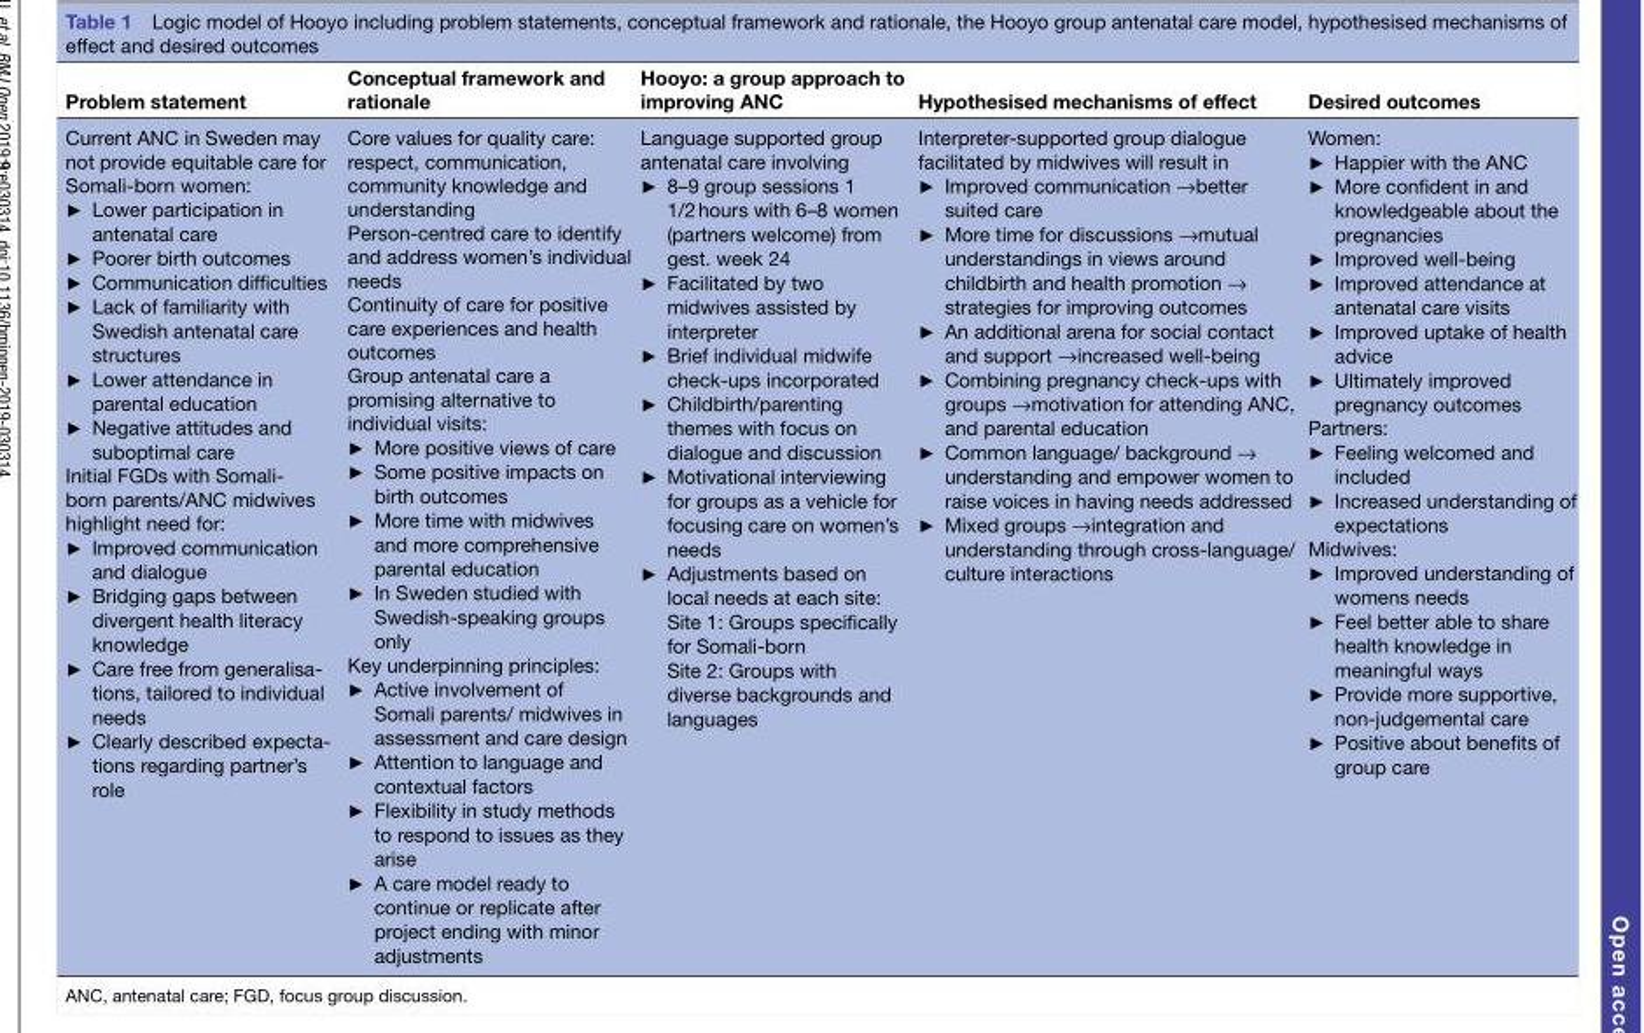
<table><thead><tr><td>Problem statement</td><td>Conceptual framework and rationale</td><td>Hooyo: a group approach to improving ANC</td><td>Hypothesised mechanisms of effect</td><td>Desired outcomes</td></tr></thead><tbody><tr><td>Current ANC in Sweden may not provide equitable care for Somali-born women: ► Lower participation in antenatal care ► Poorer birth outcomes ► Communication difficulties ► Lack of familiarity with Swedish antenatal care structures ► Lower attendance in parental education ► Negative attitudes and suboptimal care Initial FGDs with Somali- born parents/ANC midwives highlight need for: ► Improved communication and dialogue ► Bridging gaps between divergent health literacy knowledge ► Care free from generalisa- tions, tailored to individual needs ► Clearly described expecta- tions regarding partner’s role</td><td>Core values for quality care: respect, communication, community knowledge and understanding Person-centred care to identify and address women’s individual needs Continuity of care for positive care experiences and health outcomes Group antenatal care a promising alternative to individual visits: ► More positive views of care ► Some positive impacts on birth outcomes ► More time with midwives and more comprehensive parental education ► In Sweden studied with Swedish-speaking groups only Key underpinning principles: ► Active involvement of Somali parents/ midwives in assessment and care design ► Attention to language and contextual factors ► Flexibility in study methods to respond to issues as they arise ► A care model ready to continue or replicate after project ending with minor adjustments</td><td>Language supported group antenatal care involving ► 8–9 group sessions 1 1/2 hours with 6–8 women (partners welcome) from gest. week 24 ► Facilitated by two midwives assisted by interpreter ► Brief individual midwife check-ups incorporated ► Childbirth/parenting themes with focus on dialogue and discussion ► Motivational interviewing for groups as a vehicle for focusing care on women’s needs ► Adjustments based on local needs at each site: Site 1: Groups specifically for Somali-born Site 2: Groups with diverse backgrounds and languages</td><td>Interpreter-supported group dialogue facilitated by midwives will result in ► Improved communication →better suited care ► More time for discussions →mutual understandings in views around childbirth and health promotion → strategies for improving outcomes ► An additional arena for social contact and support →increased well-being ► Combining pregnancy check-ups with groups →motivation for attending ANC, and parental education ► Common language/ background → understanding and empower women to raise voices in having needs addressed ► Mixed groups →integration and understanding through cross-language/ culture interactions</td><td>Women: ► Happier with the ANC ► More confident in and knowledgeable about the pregnancies ► Improved well-being ► Improved attendance at antenatal care visits ► Improved uptake of health advice ► Ultimately improved pregnancy outcomes Partners: ► Feeling welcomed and included ► Increased understanding of expectations Midwives: ► Improved understanding of womens needs ► Feel better able to share health knowledge in meaningful ways ► Provide more supportive, non-judgemental care ► Positive about benefits of group care</td></tr></tbody></table>